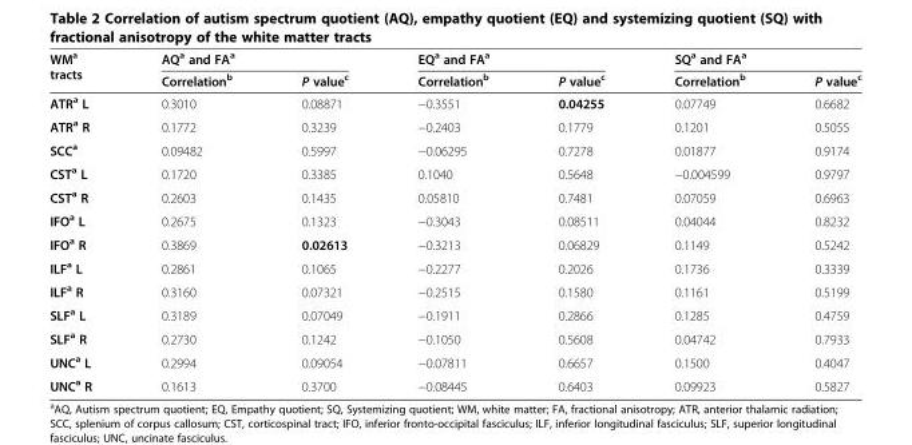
<table><thead><tr><td rowspan="2">WM<sup>a</sup> tracts</td><td colspan="2">AQ<sup>a</sup> and FA<sup>a</sup></td><td colspan="2">EQ<sup>a</sup> and FA<sup>a</sup></td><td colspan="2">SQ<sup>a</sup> and FA<sup>a</sup></td></tr><tr><td>Correlation<sup>b</sup></td><td>P value<sup>c</sup></td><td>Correlation<sup>b</sup></td><td>P value<sup>c</sup></td><td>Correlation<sup>b</sup></td><td>P value<sup>c</sup></td></tr></thead><tbody><tr><td>ATR<sup>a</sup> L</td><td>0.3010</td><td>0.08871</td><td>−0.3551</td><td>0.04255</td><td>0.07749</td><td>0.6682</td></tr><tr><td>ATR<sup>a</sup> R</td><td>0.1772</td><td>0.3239</td><td>−0.2403</td><td>0.1779</td><td>0.1201</td><td>0.5055</td></tr><tr><td>SCC<sup>a</sup></td><td>0.09482</td><td>0.5997</td><td>−0.06295</td><td>0.7278</td><td>0.01877</td><td>0.9174</td></tr><tr><td>CST<sup>a</sup> L</td><td>0.1720</td><td>0.3385</td><td>0.1040</td><td>0.5648</td><td>−0.004599</td><td>0.9797</td></tr><tr><td>CST<sup>a</sup> R</td><td>0.2603</td><td>0.1435</td><td>0.05810</td><td>0.7481</td><td>0.07059</td><td>0.6963</td></tr><tr><td>IFO<sup>a</sup> L</td><td>0.2675</td><td>0.1323</td><td>−0.3043</td><td>0.08511</td><td>0.04044</td><td>0.8232</td></tr><tr><td>IFO<sup>a</sup> R</td><td>0.3869</td><td>0.02613</td><td>−0.3213</td><td>0.06829</td><td>0.1149</td><td>0.5242</td></tr><tr><td>ILF<sup>a</sup> L</td><td>0.2861</td><td>0.1065</td><td>−0.2277</td><td>0.2026</td><td>0.1736</td><td>0.3339</td></tr><tr><td>ILF<sup>a</sup> R</td><td>0.3160</td><td>0.07321</td><td>−0.2515</td><td>0.1580</td><td>0.1161</td><td>0.5199</td></tr><tr><td>SLF<sup>a</sup> L</td><td>0.3189</td><td>0.07049</td><td>−0.1911</td><td>0.2866</td><td>0.1285</td><td>0.4759</td></tr><tr><td>SLF<sup>a</sup> R</td><td>0.2730</td><td>0.1242</td><td>−0.1050</td><td>0.5608</td><td>0.04742</td><td>0.7933</td></tr><tr><td>UNC<sup>a</sup> L</td><td>0.2994</td><td>0.09054</td><td>−0.07811</td><td>0.6657</td><td>0.1500</td><td>0.4047</td></tr><tr><td>UNC<sup>a</sup> R</td><td>0.1613</td><td>0.3700</td><td>−0.08445</td><td>0.6403</td><td>0.09923</td><td>0.5827</td></tr></tbody></table>